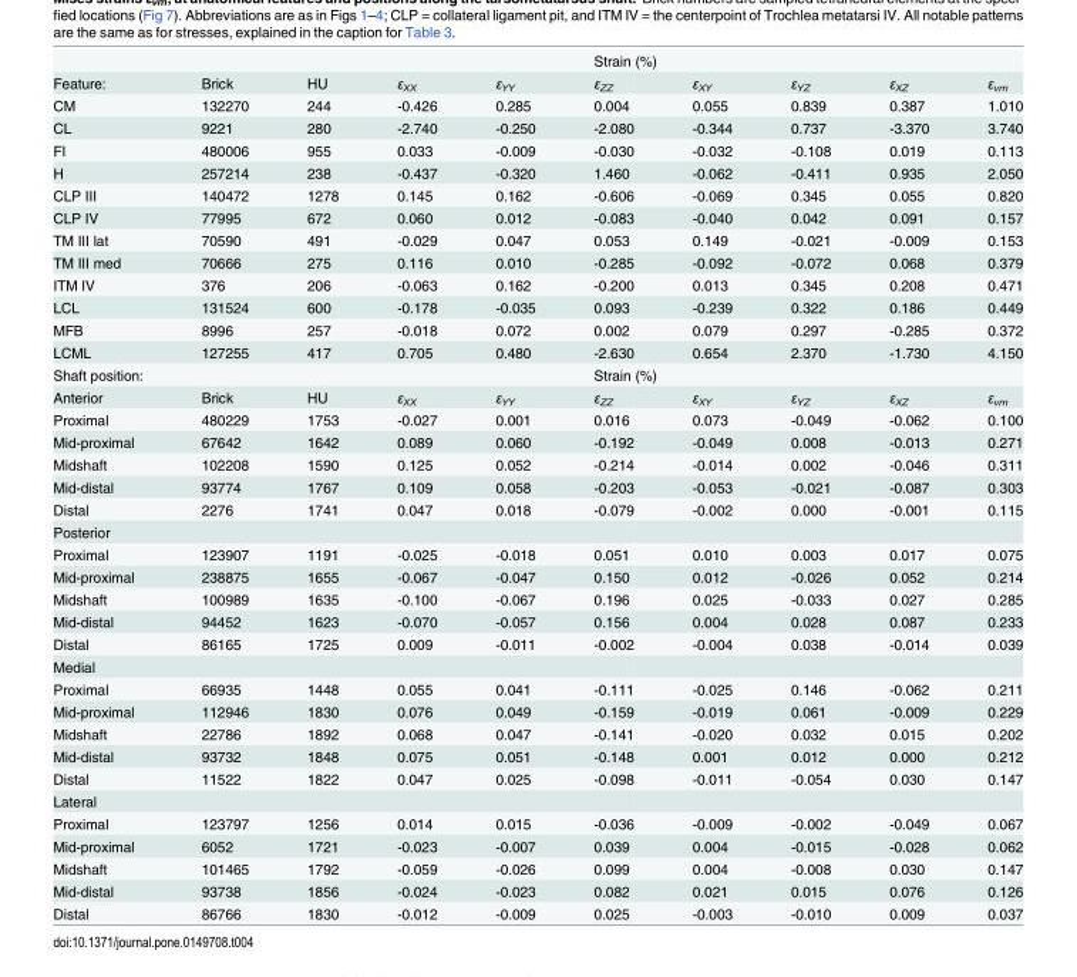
<table><thead><tr><td rowspan="2">Feature:</td><td rowspan="2">Brick</td><td rowspan="2">HU</td><td rowspan="2">ε<sub>XX</sub></td><td rowspan="2">ε<sub>YY</sub></td><td colspan="2">Strain (%)</td><td rowspan="2">ε<sub>YZ</sub></td><td rowspan="2">ε<sub>XZ</sub></td><td rowspan="2">ε<sub>vm</sub></td></tr><tr><td>ε<sub>ZZ</sub></td><td>ε<sub>XY</sub></td></tr></thead><tbody><tr><td>CM</td><td>132270</td><td>244</td><td>-0.426</td><td>0.285</td><td>0.004</td><td>0.055</td><td>0.839</td><td>0.387</td><td>1.010</td></tr><tr><td>CL</td><td>9221</td><td>280</td><td>-2.740</td><td>-0.250</td><td>-2.080</td><td>-0.344</td><td>0.737</td><td>-3.370</td><td>3.740</td></tr><tr><td>FI</td><td>480006</td><td>955</td><td>0.033</td><td>-0.009</td><td>-0.030</td><td>-0.032</td><td>-0.108</td><td>0.019</td><td>0.113</td></tr><tr><td>H</td><td>257214</td><td>238</td><td>-0.437</td><td>-0.320</td><td>1.460</td><td>-0.062</td><td>-0.411</td><td>0.935</td><td>2.050</td></tr><tr><td>CLP III</td><td>140472</td><td>1278</td><td>0.145</td><td>0.162</td><td>-0.606</td><td>-0.069</td><td>0.345</td><td>0.055</td><td>0.820</td></tr><tr><td>CLP IV</td><td>77995</td><td>672</td><td>0.060</td><td>0.012</td><td>-0.083</td><td>-0.040</td><td>0.042</td><td>0.091</td><td>0.157</td></tr><tr><td>TM III lat</td><td>70590</td><td>491</td><td>-0.029</td><td>0.047</td><td>0.053</td><td>0.149</td><td>-0.021</td><td>-0.009</td><td>0.153</td></tr><tr><td>TM III med</td><td>70666</td><td>275</td><td>0.116</td><td>0.010</td><td>-0.285</td><td>-0.092</td><td>-0.072</td><td>0.068</td><td>0.379</td></tr><tr><td>ITM IV</td><td>376</td><td>206</td><td>-0.063</td><td>0.162</td><td>-0.200</td><td>0.013</td><td>0.345</td><td>0.208</td><td>0.471</td></tr><tr><td>LCL</td><td>131524</td><td>600</td><td>-0.178</td><td>-0.035</td><td>0.093</td><td>-0.239</td><td>0.322</td><td>0.186</td><td>0.449</td></tr><tr><td>MFB</td><td>8996</td><td>257</td><td>-0.018</td><td>0.072</td><td>0.002</td><td>0.079</td><td>0.297</td><td>-0.285</td><td>0.372</td></tr><tr><td>LCML</td><td>127255</td><td>417</td><td>0.705</td><td>0.480</td><td>-2.630</td><td>0.654</td><td>2.370</td><td>-1.730</td><td>4.150</td></tr><tr><td>Shaft position:</td><td></td><td></td><td></td><td></td><td colspan="2">Strain (%)</td><td></td><td></td><td></td></tr><tr><td>Anterior</td><td>Brick</td><td>HU</td><td>ε<sub>XX</sub></td><td>ε<sub>YY</sub></td><td>ε<sub>ZZ</sub></td><td>ε<sub>XY</sub></td><td>ε<sub>YZ</sub></td><td>ε<sub>XZ</sub></td><td>ε<sub>vm</sub></td></tr><tr><td>Proximal</td><td>480229</td><td>1753</td><td>-0.027</td><td>0.001</td><td>0.016</td><td>0.073</td><td>-0.049</td><td>-0.062</td><td>0.100</td></tr><tr><td>Mid-proximal</td><td>67642</td><td>1642</td><td>0.089</td><td>0.060</td><td>-0.192</td><td>-0.049</td><td>0.008</td><td>-0.013</td><td>0.271</td></tr><tr><td>Midshaft</td><td>102208</td><td>1590</td><td>0.125</td><td>0.052</td><td>-0.214</td><td>-0.014</td><td>0.002</td><td>-0.046</td><td>0.311</td></tr><tr><td>Mid-distal</td><td>93774</td><td>1767</td><td>0.109</td><td>0.058</td><td>-0.203</td><td>-0.053</td><td>-0.021</td><td>-0.087</td><td>0.303</td></tr><tr><td>Distal</td><td>2276</td><td>1741</td><td>0.047</td><td>0.018</td><td>-0.079</td><td>-0.002</td><td>0.000</td><td>-0.001</td><td>0.115</td></tr><tr><td colspan="10">Posterior</td></tr><tr><td>Proximal</td><td>123907</td><td>1191</td><td>-0.025</td><td>-0.018</td><td>0.051</td><td>0.010</td><td>0.003</td><td>0.017</td><td>0.075</td></tr><tr><td>Mid-proximal</td><td>238875</td><td>1655</td><td>-0.067</td><td>-0.047</td><td>0.150</td><td>0.012</td><td>-0.026</td><td>0.052</td><td>0.214</td></tr><tr><td>Midshaft</td><td>100989</td><td>1635</td><td>-0.100</td><td>-0.067</td><td>0.196</td><td>0.025</td><td>-0.033</td><td>0.027</td><td>0.285</td></tr><tr><td>Mid-distal</td><td>94452</td><td>1623</td><td>-0.070</td><td>-0.057</td><td>0.156</td><td>0.004</td><td>0.028</td><td>0.087</td><td>0.233</td></tr><tr><td>Distal</td><td>86165</td><td>1725</td><td>0.009</td><td>-0.011</td><td>-0.002</td><td>-0.004</td><td>0.038</td><td>-0.014</td><td>0.039</td></tr><tr><td colspan="10">Medial</td></tr><tr><td>Proximal</td><td>66935</td><td>1448</td><td>0.055</td><td>0.041</td><td>-0.111</td><td>-0.025</td><td>0.146</td><td>-0.062</td><td>0.211</td></tr><tr><td>Mid-proximal</td><td>112946</td><td>1830</td><td>0.076</td><td>0.049</td><td>-0.159</td><td>-0.019</td><td>0.061</td><td>-0.009</td><td>0.229</td></tr><tr><td>Midshaft</td><td>22786</td><td>1892</td><td>0.068</td><td>0.047</td><td>-0.141</td><td>-0.020</td><td>0.032</td><td>0.015</td><td>0.202</td></tr><tr><td>Mid-distal</td><td>93732</td><td>1848</td><td>0.075</td><td>0.051</td><td>-0.148</td><td>0.001</td><td>0.012</td><td>0.000</td><td>0.212</td></tr><tr><td>Distal</td><td>11522</td><td>1822</td><td>0.047</td><td>0.025</td><td>-0.098</td><td>-0.011</td><td>-0.054</td><td>0.030</td><td>0.147</td></tr><tr><td colspan="10">Lateral</td></tr><tr><td>Proximal</td><td>123797</td><td>1256</td><td>0.014</td><td>0.015</td><td>-0.036</td><td>-0.009</td><td>-0.002</td><td>-0.049</td><td>0.067</td></tr><tr><td>Mid-proximal</td><td>6052</td><td>1721</td><td>-0.023</td><td>-0.007</td><td>0.039</td><td>0.004</td><td>-0.015</td><td>-0.028</td><td>0.062</td></tr><tr><td>Midshaft</td><td>101465</td><td>1792</td><td>-0.059</td><td>-0.026</td><td>0.099</td><td>0.004</td><td>-0.008</td><td>0.030</td><td>0.147</td></tr><tr><td>Mid-distal</td><td>93738</td><td>1856</td><td>-0.024</td><td>-0.023</td><td>0.082</td><td>0.021</td><td>0.015</td><td>0.076</td><td>0.126</td></tr><tr><td>Distal</td><td>86766</td><td>1830</td><td>-0.012</td><td>-0.009</td><td>0.025</td><td>-0.003</td><td>-0.010</td><td>0.009</td><td>0.037</td></tr></tbody></table>